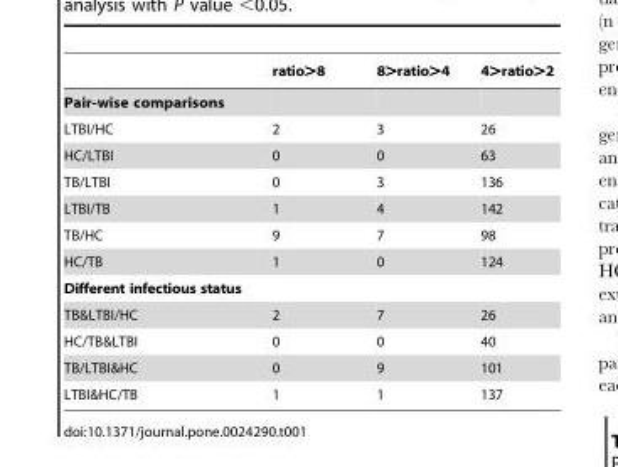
<table><thead><tr><td></td><td>ratio&gt;8</td><td>8&gt;ratio&gt;4</td><td>4&gt;ratio&gt;2</td></tr></thead><tbody><tr><td colspan="4">Pair-wise comparisons</td></tr><tr><td>LTBI/HC</td><td>2</td><td>3</td><td>26</td></tr><tr><td>HC/LTBI</td><td>0</td><td>0</td><td>63</td></tr><tr><td>TB/LTBI</td><td>0</td><td>3</td><td>136</td></tr><tr><td>LTBI/TB</td><td>1</td><td>4</td><td>142</td></tr><tr><td>TB/HC</td><td>9</td><td>7</td><td>98</td></tr><tr><td>HC/TB</td><td>1</td><td>0</td><td>124</td></tr><tr><td colspan="4">Different infectious status</td></tr><tr><td>TB&amp;LTBI/HC</td><td>2</td><td>7</td><td>26</td></tr><tr><td>HC/TB&amp;LTBI</td><td>0</td><td>0</td><td>40</td></tr><tr><td>TB/LTBI&amp;HC</td><td>0</td><td>9</td><td>101</td></tr><tr><td>LTBI&amp;HC/TB</td><td>1</td><td>1</td><td>137</td></tr></tbody></table>